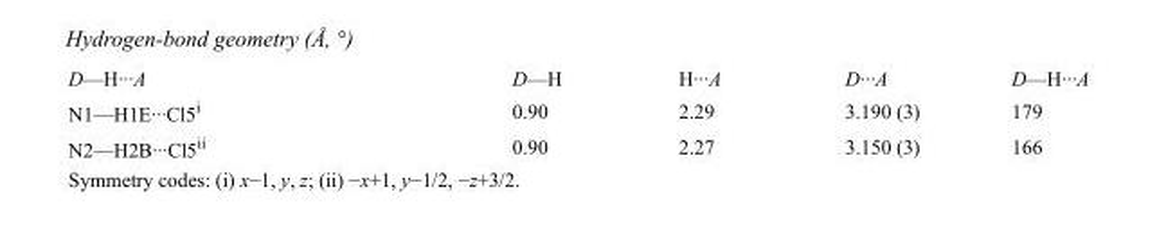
<table><tbody><tr><td>D—H···A</td><td>D—H</td><td>H···A</td><td>D···A</td><td>D—H···A</td></tr><tr><td>N1—H1E···Cl5<sup>i</sup></td><td>0.90</td><td>2.29</td><td>3.190 (3)</td><td>179</td></tr><tr><td>N2—H2B···Cl5<sup>ii</sup></td><td>0.90</td><td>2.27</td><td>3.150 (3)</td><td>166</td></tr></tbody></table>